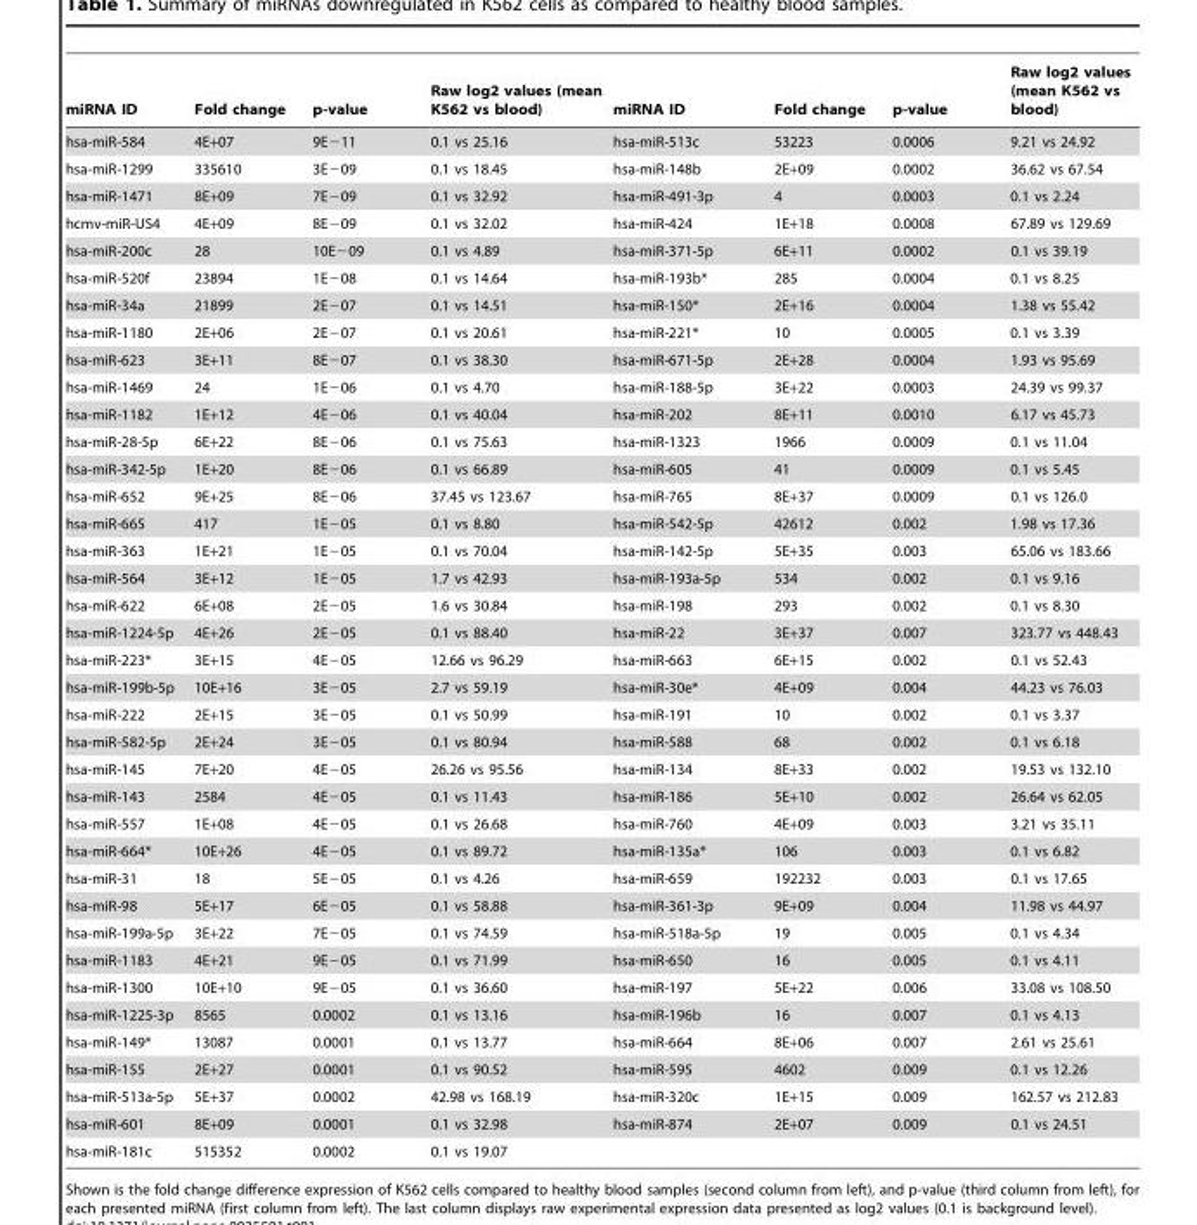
<table><thead><tr><td>miRNA ID</td><td>Fold change</td><td>p-value</td><td>Raw log2 values (mean K562 vs blood)</td><td>miRNA ID</td><td>Fold change</td><td>p-value</td><td>Raw log2 values (mean K562 vs blood)</td></tr></thead><tbody><tr><td>hsa-miR-584</td><td>4E+07</td><td>9E−11</td><td>0.1 vs 25.16</td><td>hsa-miR-513c</td><td>53223</td><td>0.0006</td><td>9.21 vs 24.92</td></tr><tr><td>hsa-miR-1299</td><td>335610</td><td>3E−09</td><td>0.1 vs 18.45</td><td>hsa-miR-148b</td><td>2E+09</td><td>0.0002</td><td>36.62 vs 67.54</td></tr><tr><td>hsa-miR-1471</td><td>8E+09</td><td>7E−09</td><td>0.1 vs 32.92</td><td>hsa-miR-491-3p</td><td>4</td><td>0.0003</td><td>0.1 vs 2.24</td></tr><tr><td>hcmv-miR-US4</td><td>4E+09</td><td>8E−09</td><td>0.1 vs 32.02</td><td>hsa-miR-424</td><td>1E+18</td><td>0.0008</td><td>67.89 vs 129.69</td></tr><tr><td>hsa-miR-200c</td><td>28</td><td>10E−09</td><td>0.1 vs 4.89</td><td>hsa-miR-371-5p</td><td>6E+11</td><td>0.0002</td><td>0.1 vs 39.19</td></tr><tr><td>hsa-miR-520f</td><td>23894</td><td>1E−08</td><td>0.1 vs 14.64</td><td>hsa-miR-193b*</td><td>285</td><td>0.0004</td><td>0.1 vs 8.25</td></tr><tr><td>hsa-miR-34a</td><td>21899</td><td>2E−07</td><td>0.1 vs 14.51</td><td>hsa-miR-150*</td><td>2E+16</td><td>0.0004</td><td>1.38 vs 55.42</td></tr><tr><td>hsa-miR-1180</td><td>2E+06</td><td>2E−07</td><td>0.1 vs 20.61</td><td>hsa-miR-221*</td><td>10</td><td>0.0005</td><td>0.1 vs 3.39</td></tr><tr><td>hsa-miR-623</td><td>3E+11</td><td>8E−07</td><td>0.1 vs 38.30</td><td>hsa-miR-671-5p</td><td>2E+28</td><td>0.0004</td><td>1.93 vs 95.69</td></tr><tr><td>hsa-miR-1469</td><td>24</td><td>1E−06</td><td>0.1 vs 4.70</td><td>hsa-miR-188-5p</td><td>3E+22</td><td>0.0003</td><td>24.39 vs 99.37</td></tr><tr><td>hsa-miR-1182</td><td>1E+12</td><td>4E−06</td><td>0.1 vs 40.04</td><td>hsa-miR-202</td><td>8E+11</td><td>0.0010</td><td>6.17 vs 45.73</td></tr><tr><td>hsa-miR-28-5p</td><td>6E+22</td><td>8E−06</td><td>0.1 vs 75.63</td><td>hsa-miR-1323</td><td>1966</td><td>0.0009</td><td>0.1 vs 11.04</td></tr><tr><td>hsa-miR-342-5p</td><td>1E+20</td><td>8E−06</td><td>0.1 vs 66.89</td><td>hsa-miR-605</td><td>41</td><td>0.0009</td><td>0.1 vs 5.45</td></tr><tr><td>hsa-miR-652</td><td>9E+25</td><td>8E−06</td><td>37.45 vs 123.67</td><td>hsa-miR-765</td><td>8E+37</td><td>0.0009</td><td>0.1 vs 126.0</td></tr><tr><td>hsa-miR-665</td><td>417</td><td>1E−05</td><td>0.1 vs 8.80</td><td>hsa-miR-542-5p</td><td>42612</td><td>0.002</td><td>1.98 vs 17.36</td></tr><tr><td>hsa-miR-363</td><td>1E+21</td><td>1E−05</td><td>0.1 vs 70.04</td><td>hsa-miR-142-5p</td><td>5E+35</td><td>0.003</td><td>65.06 vs 183.66</td></tr><tr><td>hsa-miR-564</td><td>3E+12</td><td>1E−05</td><td>1.7 vs 42.93</td><td>hsa-miR-193a-5p</td><td>534</td><td>0.002</td><td>0.1 vs 9.16</td></tr><tr><td>hsa-miR-622</td><td>6E+08</td><td>2E−05</td><td>1.6 vs 30.84</td><td>hsa-miR-198</td><td>293</td><td>0.002</td><td>0.1 vs 8.30</td></tr><tr><td>hsa-miR-1224-5p</td><td>4E+26</td><td>2E−05</td><td>0.1 vs 88.40</td><td>hsa-miR-22</td><td>3E+37</td><td>0.007</td><td>323.77 vs 448.43</td></tr><tr><td>hsa-miR-223*</td><td>3E+15</td><td>4E−05</td><td>12.66 vs 96.29</td><td>hsa-miR-663</td><td>6E+15</td><td>0.002</td><td>0.1 vs 52.43</td></tr><tr><td>hsa-miR-199b-5p</td><td>10E+16</td><td>3E−05</td><td>2.7 vs 59.19</td><td>hsa-miR-30e*</td><td>4E+09</td><td>0.004</td><td>44.23 vs 76.03</td></tr><tr><td>hsa-miR-222</td><td>2E+15</td><td>3E−05</td><td>0.1 vs 50.99</td><td>hsa-miR-191</td><td>10</td><td>0.002</td><td>0.1 vs 3.37</td></tr><tr><td>hsa-miR-582-5p</td><td>2E+24</td><td>3E−05</td><td>0.1 vs 80.94</td><td>hsa-miR-588</td><td>68</td><td>0.002</td><td>0.1 vs 6.18</td></tr><tr><td>hsa-miR-145</td><td>7E+20</td><td>4E−05</td><td>26.26 vs 95.56</td><td>hsa-miR-134</td><td>8E+33</td><td>0.002</td><td>19.53 vs 132.10</td></tr><tr><td>hsa-miR-143</td><td>2584</td><td>4E−05</td><td>0.1 vs 11.43</td><td>hsa-miR-186</td><td>5E+10</td><td>0.002</td><td>26.64 vs 62.05</td></tr><tr><td>hsa-miR-557</td><td>1E+08</td><td>4E−05</td><td>0.1 vs 26.68</td><td>hsa-miR-760</td><td>4E+09</td><td>0.003</td><td>3.21 vs 35.11</td></tr><tr><td>hsa-miR-664*</td><td>10E+26</td><td>4E−05</td><td>0.1 vs 89.72</td><td>hsa-miR-135a*</td><td>106</td><td>0.003</td><td>0.1 vs 6.82</td></tr><tr><td>hsa-miR-31</td><td>18</td><td>5E−05</td><td>0.1 vs 4.26</td><td>hsa-miR-659</td><td>192232</td><td>0.003</td><td>0.1 vs 17.65</td></tr><tr><td>hsa-miR-98</td><td>5E+17</td><td>6E−05</td><td>0.1 vs 58.88</td><td>hsa-miR-361-3p</td><td>9E+09</td><td>0.004</td><td>11.98 vs 44.97</td></tr><tr><td>hsa-miR-199a-5p</td><td>3E+22</td><td>7E−05</td><td>0.1 vs 74.59</td><td>hsa-miR-518a-5p</td><td>19</td><td>0.005</td><td>0.1 vs 4.34</td></tr><tr><td>hsa-miR-1183</td><td>4E+21</td><td>9E−05</td><td>0.1 vs 71.99</td><td>hsa-miR-650</td><td>16</td><td>0.005</td><td>0.1 vs 4.11</td></tr><tr><td>hsa-miR-1300</td><td>10E+10</td><td>9E−05</td><td>0.1 vs 36.60</td><td>hsa-miR-197</td><td>5E+22</td><td>0.006</td><td>33.08 vs 108.50</td></tr><tr><td>hsa-miR-1225-3p</td><td>8565</td><td>0.0002</td><td>0.1 vs 13.16</td><td>hsa-miR-196b</td><td>16</td><td>0.007</td><td>0.1 vs 4.13</td></tr><tr><td>hsa-miR-149*</td><td>13087</td><td>0.0001</td><td>0.1 vs 13.77</td><td>hsa-miR-664</td><td>8E+06</td><td>0.007</td><td>2.61 vs 25.61</td></tr><tr><td>hsa-miR-155</td><td>2E+27</td><td>0.0001</td><td>0.1 vs 90.52</td><td>hsa-miR-595</td><td>4602</td><td>0.009</td><td>0.1 vs 12.26</td></tr><tr><td>hsa-miR-513a-5p</td><td>5E+37</td><td>0.0002</td><td>42.98 vs 168.19</td><td>hsa-miR-320c</td><td>1E+15</td><td>0.009</td><td>162.57 vs 212.83</td></tr><tr><td>hsa-miR-601</td><td>8E+09</td><td>0.0001</td><td>0.1 vs 32.98</td><td>hsa-miR-874</td><td>2E+07</td><td>0.009</td><td>0.1 vs 24.51</td></tr><tr><td>hsa-miR-181c</td><td>515352</td><td>0.0002</td><td>0.1 vs 19.07</td><td></td><td></td><td></td><td></td></tr></tbody></table>